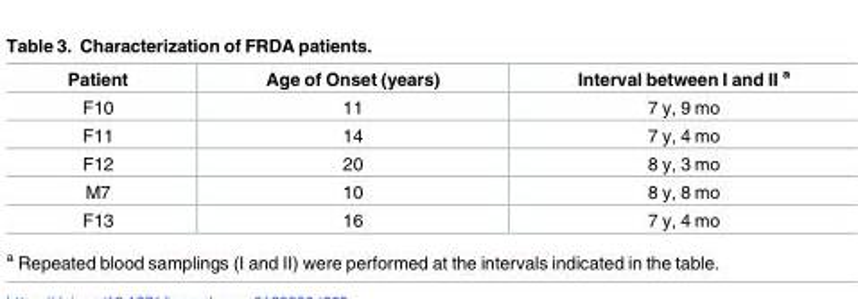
<table><thead><tr><td>Patient</td><td>Age of Onset (years)</td><td>Interval between I and II <sup>a</sup></td></tr></thead><tbody><tr><td>F10</td><td>11</td><td>7 y, 9 mo</td></tr><tr><td>F11</td><td>14</td><td>7 y, 4 mo</td></tr><tr><td>F12</td><td>20</td><td>8 y, 3 mo</td></tr><tr><td>M7</td><td>10</td><td>8 y, 8 mo</td></tr><tr><td>F13</td><td>16</td><td>7 y, 4 mo</td></tr></tbody></table>